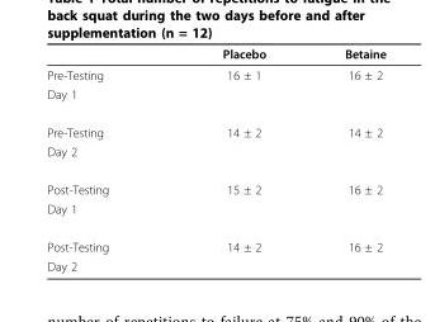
<table><thead><tr><td></td><td>Placebo</td><td>Betaine</td></tr></thead><tbody><tr><td>Pre-Testing</td><td>16 ± 1</td><td>16 ± 2</td></tr><tr><td colspan="3">Day 1</td></tr><tr><td>Pre-Testing</td><td>14 ± 2</td><td>14 ± 2</td></tr><tr><td colspan="3">Day 2</td></tr><tr><td>Post-Testing</td><td>15 ± 2</td><td>16 ± 2</td></tr><tr><td colspan="3">Day 1</td></tr><tr><td>Post-Testing</td><td>14 ± 2</td><td>16 ± 2</td></tr><tr><td>Day 2</td><td></td><td></td></tr></tbody></table>